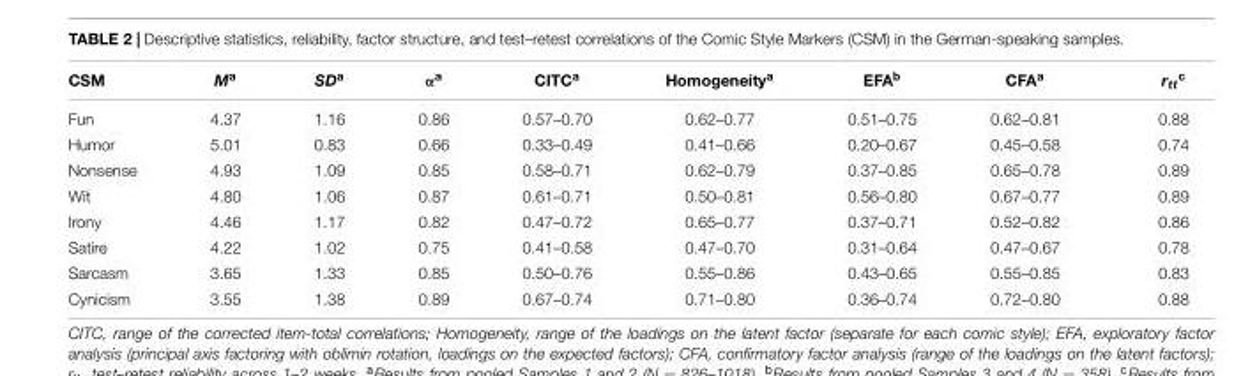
<table><thead><tr><td>CSM</td><td>M<sup>a</sup></td><td>SD<sup>a</sup></td><td>α<sup>a</sup></td><td>CITC<sup>a</sup></td><td>Homogeneity<sup>a</sup></td><td>EFA<sup>b</sup></td><td>CFA<sup>a</sup></td><td>r<sub>tt</sub><sup>c</sup></td></tr></thead><tbody><tr><td>Fun</td><td>4.37</td><td>1.16</td><td>0.86</td><td>0.57–0.70</td><td>0.62–0.77</td><td>0.51–0.75</td><td>0.62–0.81</td><td>0.88</td></tr><tr><td>Humor</td><td>5.01</td><td>0.83</td><td>0.66</td><td>0.33–0.49</td><td>0.41–0.66</td><td>0.20–0.67</td><td>0.45–0.58</td><td>0.74</td></tr><tr><td>Nonsense</td><td>4.93</td><td>1.09</td><td>0.85</td><td>0.58–0.71</td><td>0.62–0.79</td><td>0.37–0.85</td><td>0.65–0.78</td><td>0.89</td></tr><tr><td>Wit</td><td>4.80</td><td>1.06</td><td>0.87</td><td>0.61–0.71</td><td>0.50–0.81</td><td>0.56–0.80</td><td>0.67–0.77</td><td>0.89</td></tr><tr><td>Irony</td><td>4.46</td><td>1.17</td><td>0.82</td><td>0.47–0.72</td><td>0.65–0.77</td><td>0.37–0.71</td><td>0.52–0.82</td><td>0.86</td></tr><tr><td>Satire</td><td>4.22</td><td>1.02</td><td>0.75</td><td>0.41–0.58</td><td>0.47–0.70</td><td>0.31–0.64</td><td>0.47–0.67</td><td>0.78</td></tr><tr><td>Sarcasm</td><td>3.65</td><td>1.33</td><td>0.85</td><td>0.50–0.76</td><td>0.55–0.86</td><td>0.43–0.65</td><td>0.55–0.85</td><td>0.83</td></tr><tr><td>Cynicism</td><td>3.55</td><td>1.38</td><td>0.89</td><td>0.67–0.74</td><td>0.71–0.80</td><td>0.36–0.74</td><td>0.72–0.80</td><td>0.88</td></tr></tbody></table>